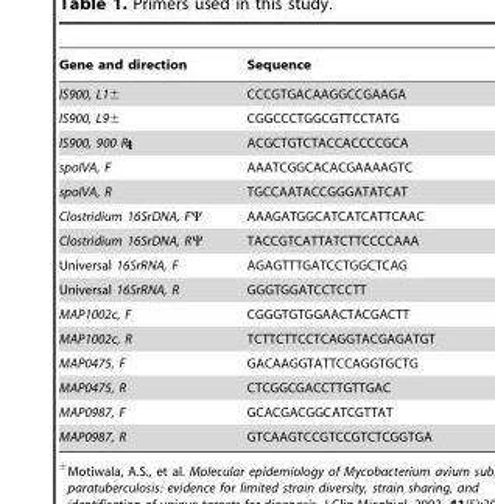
<table><thead><tr><td>Gene and direction</td><td>Sequence</td></tr></thead><tbody><tr><td>IS900, L1±</td><td>CCCGTGACAAGGCCGAAGA</td></tr><tr><td>IS900, L9±</td><td>CGGCCCTGGCGTTCCTATG</td></tr><tr><td>IS900, 900 R</td><td>ACGCTGTCTACCACCCCGCA</td></tr><tr><td>spoIVA, F</td><td>AAATCGGCACACGAAAAGTC</td></tr><tr><td>spoIVA, R</td><td>TGCCAATACCGGGATATCAT</td></tr><tr><td>Clostridium 16SrDNA, FΨ</td><td>AAAGATGGCATCATCATTCAAC</td></tr><tr><td>Clostridium 16SrDNA, RΨ</td><td>TACCGTCATTATCTTCCCCAAA</td></tr><tr><td>Universal 16SrRNA, F</td><td>AGAGTTTGATCCTGGCTCAG</td></tr><tr><td>Universal 16SrRNA, R</td><td>GGGTGGATCCTCCTT</td></tr><tr><td>MAP1002c, F</td><td>CGGGTGTGGAACTACGACTT</td></tr><tr><td>MAP1002c, R</td><td>TCTTCTTCCTCAGGTACGAGATGT</td></tr><tr><td>MAP0475, F</td><td>GACAAGGTATTCCAGGTGCTG</td></tr><tr><td>MAP0475, R</td><td>CTCGGCGACCTTGTTGAC</td></tr><tr><td>MAP0987, F</td><td>GCACGACGGCATCGTTAT</td></tr><tr><td>MAP0987, R</td><td>GTCAAGTCCGTCCGTCTCGGTGA</td></tr></tbody></table>